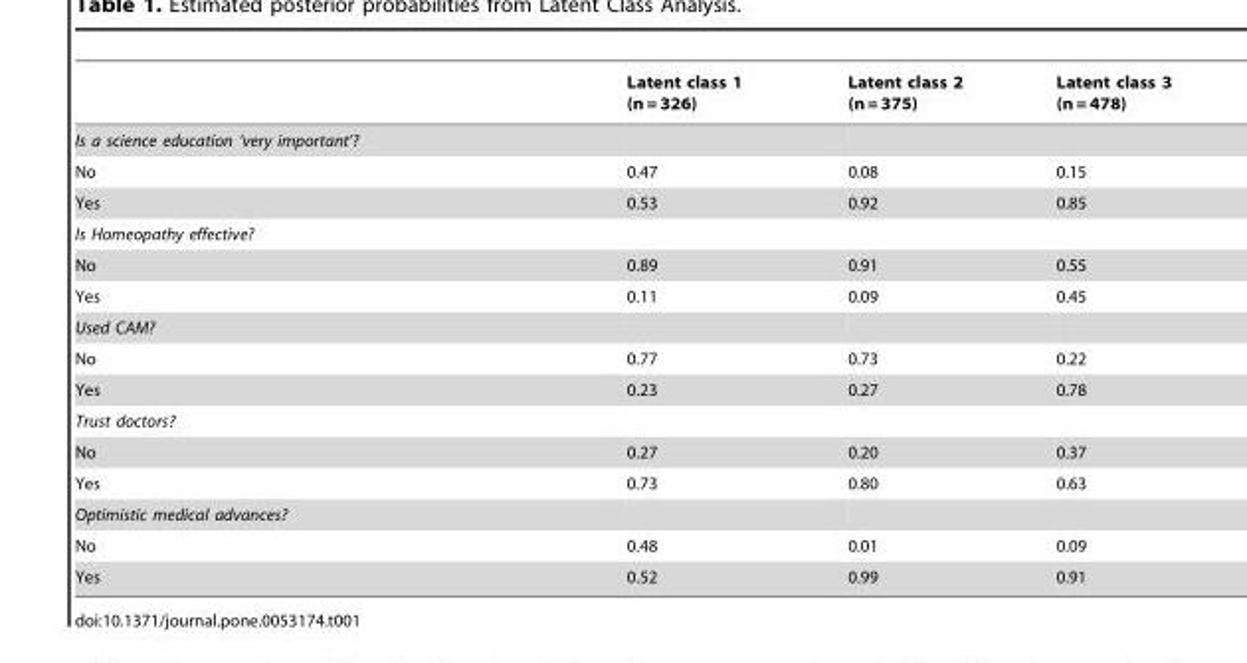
<table><thead><tr><td></td><td>Latent class 1 (n = 326)</td><td>Latent class 2 (n = 375)</td><td>Latent class 3 (n = 478)</td></tr></thead><tbody><tr><td colspan="4">Is a science education ‘very important’?</td></tr><tr><td>No</td><td>0.47</td><td>0.08</td><td>0.15</td></tr><tr><td>Yes</td><td>0.53</td><td>0.92</td><td>0.85</td></tr><tr><td colspan="4">Is Homeopathy effective?</td></tr><tr><td>No</td><td>0.89</td><td>0.91</td><td>0.55</td></tr><tr><td>Yes</td><td>0.11</td><td>0.09</td><td>0.45</td></tr><tr><td colspan="4">Used CAM?</td></tr><tr><td>No</td><td>0.77</td><td>0.73</td><td>0.22</td></tr><tr><td>Yes</td><td>0.23</td><td>0.27</td><td>0.78</td></tr><tr><td colspan="4">Trust doctors?</td></tr><tr><td>No</td><td>0.27</td><td>0.20</td><td>0.37</td></tr><tr><td>Yes</td><td>0.73</td><td>0.80</td><td>0.63</td></tr><tr><td colspan="4">Optimistic medical advances?</td></tr><tr><td>No</td><td>0.48</td><td>0.01</td><td>0.09</td></tr><tr><td>Yes</td><td>0.52</td><td>0.99</td><td>0.91</td></tr></tbody></table>